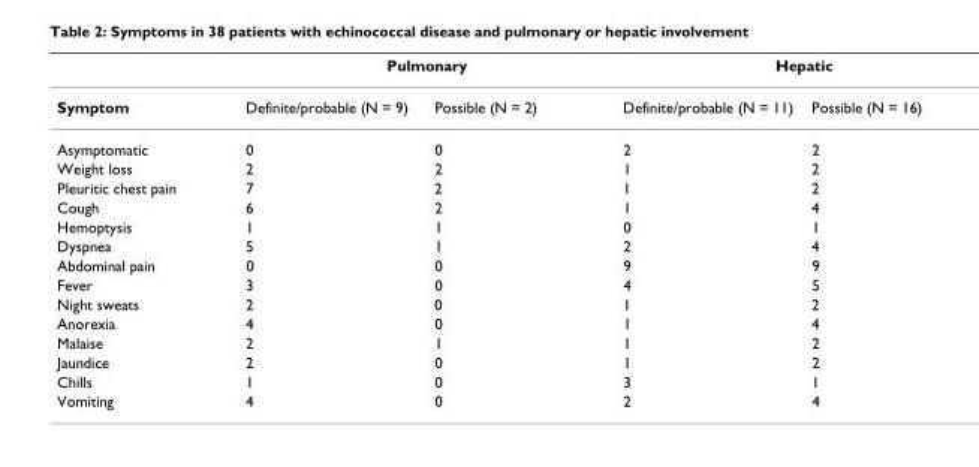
<table><thead><tr><td rowspan="2">Symptom</td><td colspan="2">Pulmonary</td><td colspan="2">Hepatic</td></tr><tr><td>Definite/probable (N = 9)</td><td>Possible (N = 2)</td><td>Definite/probable (N = 11)</td><td>Possible (N = 16)</td></tr></thead><tbody><tr><td>Asymptomatic</td><td>0</td><td>0</td><td>2</td><td>2</td></tr><tr><td>Weight loss</td><td>2</td><td>2</td><td>1</td><td>2</td></tr><tr><td>Pleuritic chest pain</td><td>7</td><td>2</td><td>1</td><td>2</td></tr><tr><td>Cough</td><td>6</td><td>2</td><td>1</td><td>4</td></tr><tr><td>Hemoptysis</td><td>1</td><td>1</td><td>0</td><td>1</td></tr><tr><td>Dyspnea</td><td>5</td><td>1</td><td>2</td><td>4</td></tr><tr><td>Abdominal pain</td><td>0</td><td>0</td><td>9</td><td>9</td></tr><tr><td>Fever</td><td>3</td><td>0</td><td>4</td><td>5</td></tr><tr><td>Night sweats</td><td>2</td><td>0</td><td>1</td><td>2</td></tr><tr><td>Anorexia</td><td>4</td><td>0</td><td>1</td><td>4</td></tr><tr><td>Malaise</td><td>2</td><td>1</td><td>1</td><td>2</td></tr><tr><td>Jaundice</td><td>2</td><td>0</td><td>1</td><td>2</td></tr><tr><td>Chills</td><td>1</td><td>0</td><td>3</td><td>1</td></tr><tr><td>Vomiting</td><td>4</td><td>0</td><td>2</td><td>4</td></tr></tbody></table>